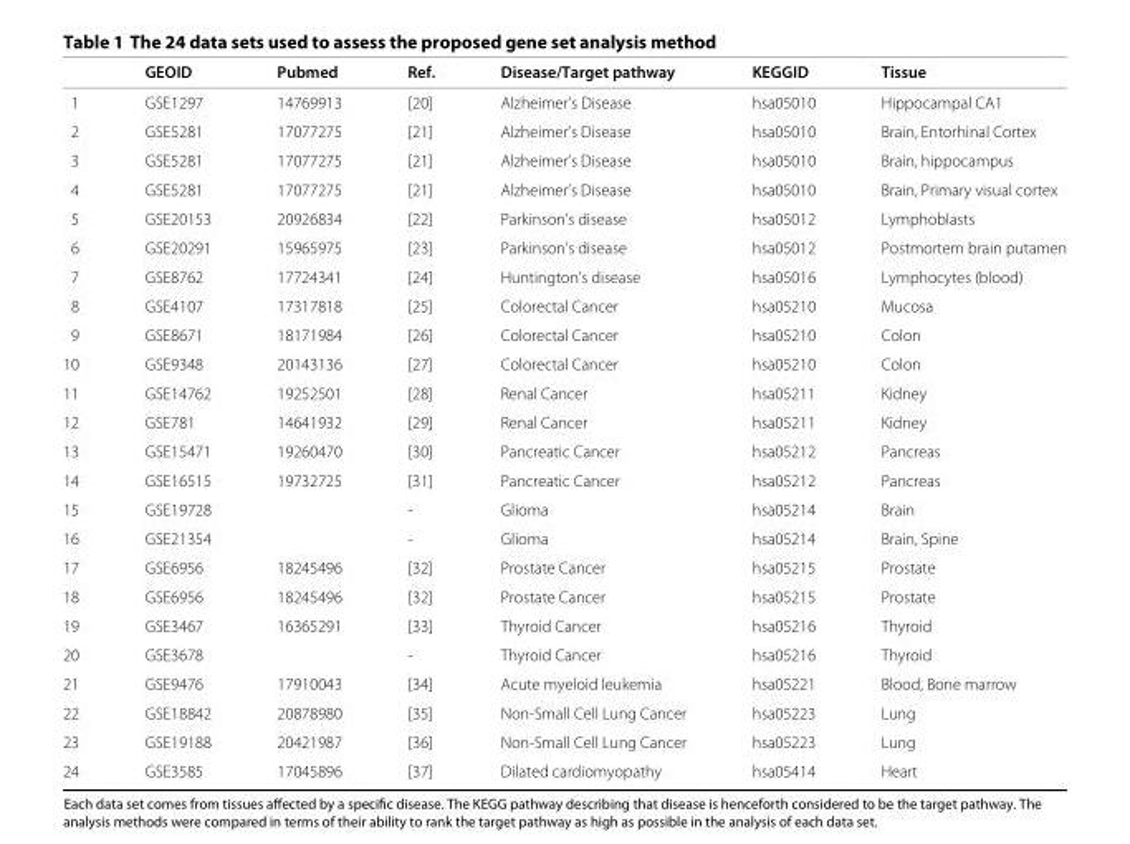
<table><thead><tr><td></td><td>GEOID</td><td>Pubmed</td><td>Ref.</td><td>Disease/Target pathway</td><td>KEGGID</td><td>Tissue</td></tr></thead><tbody><tr><td>1</td><td>GSE1297</td><td>14769913</td><td>[20]</td><td>Alzheimer’s Disease</td><td>hsa05010</td><td>Hippocampal CA1</td></tr><tr><td>2</td><td>GSE5281</td><td>17077275</td><td>[21]</td><td>Alzheimer’s Disease</td><td>hsa05010</td><td>Brain, Entorhinal Cortex</td></tr><tr><td>3</td><td>GSE5281</td><td>17077275</td><td>[21]</td><td>Alzheimer’s Disease</td><td>hsa05010</td><td>Brain, hippocampus</td></tr><tr><td>4</td><td>GSE5281</td><td>17077275</td><td>[21]</td><td>Alzheimer’s Disease</td><td>hsa05010</td><td>Brain, Primary visual cortex</td></tr><tr><td>5</td><td>GSE20153</td><td>20926834</td><td>[22]</td><td>Parkinson’s disease</td><td>hsa05012</td><td>Lymphoblasts</td></tr><tr><td>6</td><td>GSE20291</td><td>15965975</td><td>[23]</td><td>Parkinson’s disease</td><td>hsa05012</td><td>Postmortem brain putamen</td></tr><tr><td>7</td><td>GSE8762</td><td>17724341</td><td>[24]</td><td>Huntington’s disease</td><td>hsa05016</td><td>Lymphocytes (blood)</td></tr><tr><td>8</td><td>GSE4107</td><td>17317818</td><td>[25]</td><td>Colorectal Cancer</td><td>hsa05210</td><td>Mucosa</td></tr><tr><td>9</td><td>GSE8671</td><td>18171984</td><td>[26]</td><td>Colorectal Cancer</td><td>hsa05210</td><td>Colon</td></tr><tr><td>10</td><td>GSE9348</td><td>20143136</td><td>[27]</td><td>Colorectal Cancer</td><td>hsa05210</td><td>Colon</td></tr><tr><td>11</td><td>GSE14762</td><td>19252501</td><td>[28]</td><td>Renal Cancer</td><td>hsa05211</td><td>Kidney</td></tr><tr><td>12</td><td>GSE781</td><td>14641932</td><td>[29]</td><td>Renal Cancer</td><td>hsa05211</td><td>Kidney</td></tr><tr><td>13</td><td>GSE15471</td><td>19260470</td><td>[30]</td><td>Pancreatic Cancer</td><td>hsa05212</td><td>Pancreas</td></tr><tr><td>14</td><td>GSE16515</td><td>19732725</td><td>[31]</td><td>Pancreatic Cancer</td><td>hsa05212</td><td>Pancreas</td></tr><tr><td>15</td><td>GSE19728</td><td></td><td>-</td><td>Glioma</td><td>hsa05214</td><td>Brain</td></tr><tr><td>16</td><td>GSE21354</td><td></td><td>-</td><td>Glioma</td><td>hsa05214</td><td>Brain, Spine</td></tr><tr><td>17</td><td>GSE6956</td><td>18245496</td><td>[32]</td><td>Prostate Cancer</td><td>hsa05215</td><td>Prostate</td></tr><tr><td>18</td><td>GSE6956</td><td>18245496</td><td>[32]</td><td>Prostate Cancer</td><td>hsa05215</td><td>Prostate</td></tr><tr><td>19</td><td>GSE3467</td><td>16365291</td><td>[33]</td><td>Thyroid Cancer</td><td>hsa05216</td><td>Thyroid</td></tr><tr><td>20</td><td>GSE3678</td><td></td><td>-</td><td>Thyroid Cancer</td><td>hsa05216</td><td>Thyroid</td></tr><tr><td>21</td><td>GSE9476</td><td>17910043</td><td>[34]</td><td>Acute myeloid leukemia</td><td>hsa05221</td><td>Blood, Bone marrow</td></tr><tr><td>22</td><td>GSE18842</td><td>20878980</td><td>[35]</td><td>Non-Small Cell Lung Cancer</td><td>hsa05223</td><td>Lung</td></tr><tr><td>23</td><td>GSE19188</td><td>20421987</td><td>[36]</td><td>Non-Small Cell Lung Cancer</td><td>hsa05223</td><td>Lung</td></tr><tr><td>24</td><td>GSE3585</td><td>17045896</td><td>[37]</td><td>Dilated cardiomyopathy</td><td>hsa05414</td><td>Heart</td></tr></tbody></table>